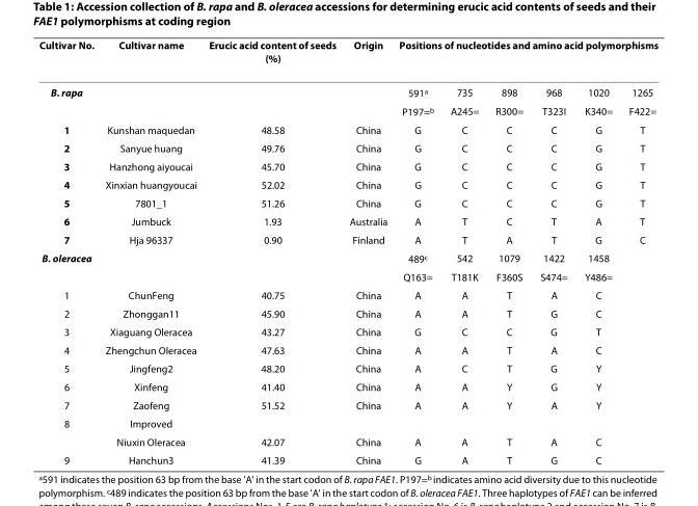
<table><thead><tr><td rowspan="2">Cultivar No. B. rapa</td><td rowspan="2">Cultivar name</td><td rowspan="2">Erucic acid content of seeds (%)</td><td rowspan="2">Origin</td><td colspan="6">Positions of nucleotides and amino acid polymorphisms</td></tr><tr><td>591<sup>a</sup></td><td>735</td><td>898</td><td>968</td><td>1020</td><td>1265</td></tr></thead><tbody><tr><td></td><td></td><td></td><td></td><td>P197=<sup>b</sup></td><td>A245=</td><td>R300=</td><td>T323I</td><td>K340=</td><td>F422=</td></tr><tr><td>1</td><td>Kunshan maquedan</td><td>48.58</td><td>China</td><td>G</td><td>C</td><td>C</td><td>C</td><td>G</td><td>T</td></tr><tr><td>2</td><td>Sanyue huang</td><td>49.76</td><td>China</td><td>G</td><td>C</td><td>C</td><td>C</td><td>G</td><td>T</td></tr><tr><td>3</td><td>Hanzhong aiyoucai</td><td>45.70</td><td>China</td><td>G</td><td>C</td><td>C</td><td>C</td><td>G</td><td>T</td></tr><tr><td>4</td><td>Xinxian huangyoucai</td><td>52.02</td><td>China</td><td>G</td><td>C</td><td>C</td><td>C</td><td>G</td><td>T</td></tr><tr><td>5</td><td>7801_1</td><td>51.26</td><td>China</td><td>G</td><td>C</td><td>C</td><td>C</td><td>G</td><td>T</td></tr><tr><td>6</td><td>Jumbuck</td><td>1.93</td><td>Australia</td><td>A</td><td>T</td><td>C</td><td>T</td><td>A</td><td>T</td></tr><tr><td>7</td><td>Hja 96337</td><td>0.90</td><td>Finland</td><td>A</td><td>T</td><td>A</td><td>T</td><td>G</td><td>C</td></tr><tr><td rowspan="2">B. oleracea</td><td></td><td></td><td></td><td>489<sup>c</sup></td><td>542</td><td>1079</td><td>1422</td><td>1458</td><td></td></tr><tr><td></td><td></td><td></td><td>Q163=</td><td>T181K</td><td>F360S</td><td>S474=</td><td>Y486=</td><td></td></tr><tr><td>1</td><td>ChunFeng</td><td>40.75</td><td>China</td><td>A</td><td>A</td><td>T</td><td>A</td><td>C</td><td></td></tr><tr><td>2</td><td>Zhonggan11</td><td>45.90</td><td>China</td><td>A</td><td>A</td><td>T</td><td>G</td><td>C</td><td></td></tr><tr><td>3</td><td>Xiaguang Oleracea</td><td>43.27</td><td>China</td><td>G</td><td>C</td><td>C</td><td>G</td><td>T</td><td></td></tr><tr><td>4</td><td>Zhengchun Oleracea</td><td>47.63</td><td>China</td><td>A</td><td>A</td><td>T</td><td>A</td><td>C</td><td></td></tr><tr><td>5</td><td>Jingfeng2</td><td>48.20</td><td>China</td><td>A</td><td>C</td><td>T</td><td>G</td><td>Y</td><td></td></tr><tr><td>6</td><td>Xinfeng</td><td>41.40</td><td>China</td><td>A</td><td>A</td><td>Y</td><td>G</td><td>Y</td><td></td></tr><tr><td>7</td><td>Zaofeng</td><td>51.52</td><td>China</td><td>A</td><td>A</td><td>Y</td><td>A</td><td>Y</td><td></td></tr><tr><td rowspan="2">8</td><td>Improved</td><td></td><td></td><td></td><td></td><td></td><td></td><td></td><td></td></tr><tr><td>Niuxin Oleracea</td><td>42.07</td><td>China</td><td>A</td><td>A</td><td>T</td><td>A</td><td>C</td><td></td></tr><tr><td>9</td><td>Hanchun3</td><td>41.39</td><td>China</td><td>G</td><td>A</td><td>T</td><td>G</td><td>C</td><td></td></tr></tbody></table>